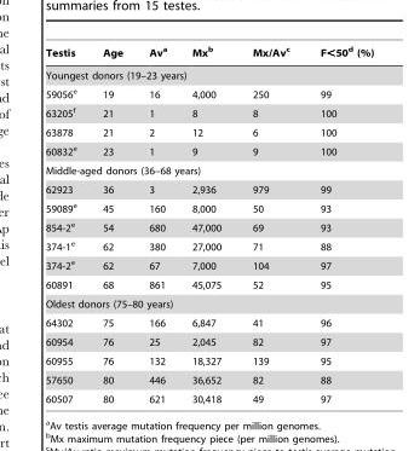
<table><thead><tr><td>Testis</td><td>Age</td><td>Av<sup>a</sup></td><td>Mx<sup>b</sup></td><td>Mx/Av<sup>c</sup></td><td>F&lt;50<sup>d</sup> (%)</td></tr></thead><tbody><tr><td colspan="6">Youngest donors (19–23 years)</td></tr><tr><td>59056<sup>e</sup></td><td>19</td><td>16</td><td>4,000</td><td>250</td><td>99</td></tr><tr><td>63205<sup>f</sup></td><td>21</td><td>1</td><td>8</td><td>8</td><td>100</td></tr><tr><td>63878</td><td>21</td><td>2</td><td>12</td><td>6</td><td>100</td></tr><tr><td>60832<sup>e</sup></td><td>23</td><td>1</td><td>9</td><td>9</td><td>100</td></tr><tr><td colspan="6">Middle-aged donors (36–68 years)</td></tr><tr><td>62923</td><td>36</td><td>3</td><td>2,936</td><td>979</td><td>99</td></tr><tr><td>59089<sup>e</sup></td><td>45</td><td>160</td><td>8,000</td><td>50</td><td>93</td></tr><tr><td>854-2<sup>e</sup></td><td>54</td><td>680</td><td>47,000</td><td>69</td><td>93</td></tr><tr><td>374-1<sup>e</sup></td><td>62</td><td>380</td><td>27,000</td><td>71</td><td>88</td></tr><tr><td>374-2<sup>e</sup></td><td>62</td><td>67</td><td>7,000</td><td>104</td><td>97</td></tr><tr><td>60891</td><td>68</td><td>861</td><td>45,075</td><td>52</td><td>95</td></tr><tr><td colspan="6">Oldest donors (75–80 years)</td></tr><tr><td>64302</td><td>75</td><td>166</td><td>6,847</td><td>41</td><td>96</td></tr><tr><td>60954</td><td>76</td><td>25</td><td>2,045</td><td>82</td><td>97</td></tr><tr><td>60955</td><td>76</td><td>132</td><td>18,327</td><td>139</td><td>95</td></tr><tr><td>57650</td><td>80</td><td>446</td><td>36,652</td><td>82</td><td>88</td></tr><tr><td>60507</td><td>80</td><td>621</td><td>30,418</td><td>49</td><td>97</td></tr></tbody></table>